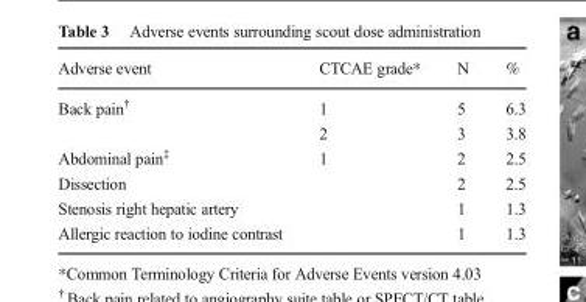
<table><thead><tr><td>Adverse event</td><td>CTCAE grade*</td><td>N</td><td>%</td></tr></thead><tbody><tr><td rowspan="2">Back pain<sup>†</sup></td><td>1</td><td>5</td><td>6.3</td></tr><tr><td>2</td><td>3</td><td>3.8</td></tr><tr><td>Abdominal pain<sup>‡</sup></td><td>1</td><td>2</td><td>2.5</td></tr><tr><td>Dissection</td><td></td><td>2</td><td>2.5</td></tr><tr><td>Stenosis right hepatic artery</td><td></td><td>1</td><td>1.3</td></tr><tr><td>Allergic reaction to iodine contrast</td><td></td><td>1</td><td>1.3</td></tr></tbody></table>